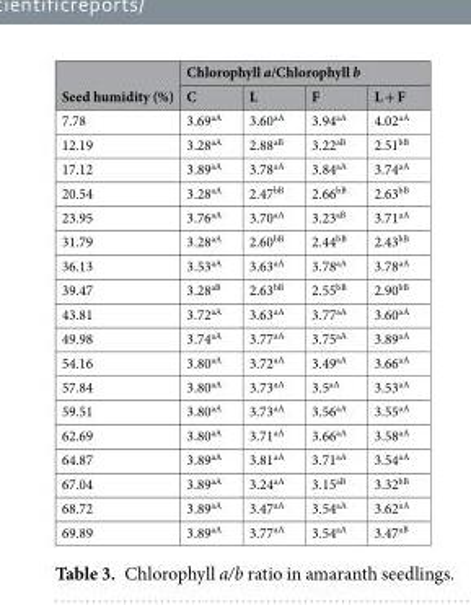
<table><thead><tr><td rowspan="2">Seed humidity (%)</td><td colspan="4">Chlorophyll a/Chlorophyll b</td></tr><tr><td>C</td><td>L</td><td>F</td><td>L + F</td></tr></thead><tbody><tr><td>7.78</td><td>3.69<sup>aA</sup></td><td>3.60<sup>aA</sup></td><td>3.94<sup>aA</sup></td><td>4.02<sup>aA</sup></td></tr><tr><td>12.19</td><td>3.28<sup>aA</sup></td><td>2.88<sup>aB</sup></td><td>3.22<sup>aB</sup></td><td>2.51<sup>bB</sup></td></tr><tr><td>17.12</td><td>3.89<sup>aA</sup></td><td>3.78<sup>aA</sup></td><td>3.84<sup>aA</sup></td><td>3.74<sup>aA</sup></td></tr><tr><td>20.54</td><td>3.28<sup>aA</sup></td><td>2.47<sup>bB</sup></td><td>2.66<sup>bB</sup></td><td>2.63<sup>bB</sup></td></tr><tr><td>23.95</td><td>3.76<sup>aA</sup></td><td>3.70<sup>aA</sup></td><td>3.23<sup>aB</sup></td><td>3.71<sup>aA</sup></td></tr><tr><td>31.79</td><td>3.28<sup>aA</sup></td><td>2.60<sup>bB</sup></td><td>2.44<sup>bB</sup></td><td>2.43<sup>bB</sup></td></tr><tr><td>36.13</td><td>3.53<sup>aA</sup></td><td>3.63<sup>aA</sup></td><td>3.78<sup>aA</sup></td><td>3.78<sup>aA</sup></td></tr><tr><td>39.47</td><td>3.28<sup>aB</sup></td><td>2.63<sup>bB</sup></td><td>2.55<sup>bB</sup></td><td>2.90<sup>bB</sup></td></tr><tr><td>43.81</td><td>3.72<sup>aA</sup></td><td>3.63<sup>aA</sup></td><td>3.77<sup>aA</sup></td><td>3.60<sup>aA</sup></td></tr><tr><td>49.98</td><td>3.74<sup>aA</sup></td><td>3.77<sup>aA</sup></td><td>3.75<sup>aA</sup></td><td>3.89<sup>aA</sup></td></tr><tr><td>54.16</td><td>3.80<sup>aA</sup></td><td>3.72<sup>aA</sup></td><td>3.49<sup>aA</sup></td><td>3.66<sup>aA</sup></td></tr><tr><td>57.84</td><td>3.80<sup>aA</sup></td><td>3.73<sup>aA</sup></td><td>3.5<sup>aA</sup></td><td>3.53<sup>aA</sup></td></tr><tr><td>59.51</td><td>3.80<sup>aA</sup></td><td>3.73<sup>aA</sup></td><td>3.56<sup>aA</sup></td><td>3.55<sup>aA</sup></td></tr><tr><td>62.69</td><td>3.80<sup>aA</sup></td><td>3.71<sup>aA</sup></td><td>3.66<sup>aA</sup></td><td>3.58<sup>aA</sup></td></tr><tr><td>64.87</td><td>3.89<sup>aA</sup></td><td>3.81<sup>aA</sup></td><td>3.71<sup>aA</sup></td><td>3.54<sup>aA</sup></td></tr><tr><td>67.04</td><td>3.89<sup>aA</sup></td><td>3.24<sup>aA</sup></td><td>3.15<sup>aB</sup></td><td>3.32<sup>bB</sup></td></tr><tr><td>68.72</td><td>3.89<sup>aA</sup></td><td>3.47<sup>aA</sup></td><td>3.54<sup>aA</sup></td><td>3.62<sup>aA</sup></td></tr><tr><td>69.89</td><td>3.89<sup>aA</sup></td><td>3.77<sup>aA</sup></td><td>3.54<sup>aA</sup></td><td>3.47<sup>aB</sup></td></tr></tbody></table>